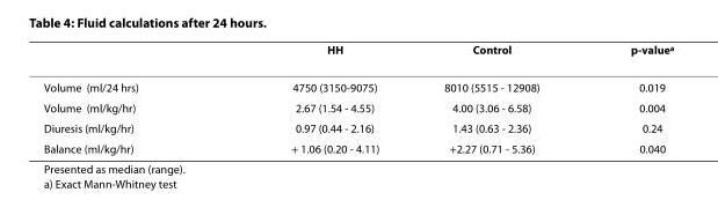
<table><thead><tr><td></td><td>HH</td><td>Control</td><td>p-value<sup>a</sup></td></tr></thead><tbody><tr><td>Volume (ml/24 hrs)</td><td>4750 (3150-9075)</td><td>8010 (5515 - 12908)</td><td>0.019</td></tr><tr><td>Volume (ml/kg/hr)</td><td>2.67 (1.54 - 4.55)</td><td>4.00 (3.06 - 6.58)</td><td>0.004</td></tr><tr><td>Diuresis (ml/kg/hr)</td><td>0.97 (0.44 - 2.16)</td><td>1.43 (0.63 - 2.36)</td><td>0.24</td></tr><tr><td>Balance (ml/kg/hr)</td><td>+ 1.06 (0.20 - 4.11)</td><td>+2.27 (0.71 - 5.36)</td><td>0.040</td></tr></tbody></table>